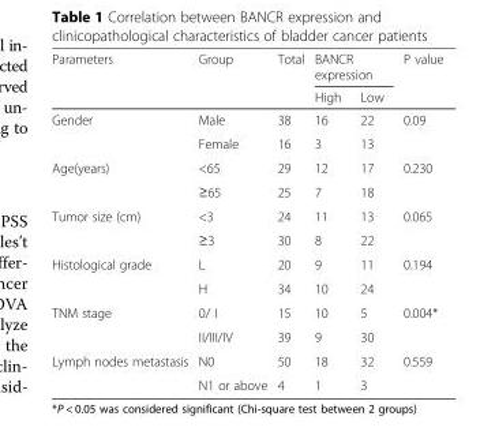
<table><thead><tr><td rowspan="2">Parameters</td><td rowspan="2">Group</td><td rowspan="2">Total</td><td colspan="2">BANCR expression</td><td rowspan="2">P value</td></tr><tr><td>High</td><td>Low</td></tr></thead><tbody><tr><td rowspan="2">Gender</td><td>Male</td><td>38</td><td>16</td><td>22</td><td rowspan="2">0.09</td></tr><tr><td>Female</td><td>16</td><td>3</td><td>13</td></tr><tr><td rowspan="2">Age(years)</td><td>&lt;65</td><td>29</td><td>12</td><td>17</td><td rowspan="2">0.230</td></tr><tr><td>≥65</td><td>25</td><td>7</td><td>18</td></tr><tr><td rowspan="2">Tumor size (cm)</td><td>&lt;3</td><td>24</td><td>11</td><td>13</td><td rowspan="2">0.065</td></tr><tr><td>≥3</td><td>30</td><td>8</td><td>22</td></tr><tr><td rowspan="2">Histological grade</td><td>L</td><td>20</td><td>9</td><td>11</td><td rowspan="2">0.194</td></tr><tr><td>H</td><td>34</td><td>10</td><td>24</td></tr><tr><td rowspan="2">TNM stage</td><td>0/ I</td><td>15</td><td>10</td><td>5</td><td rowspan="2">0.004*</td></tr><tr><td>II/III/IV</td><td>39</td><td>9</td><td>30</td></tr><tr><td rowspan="2">Lymph nodes metastasis</td><td>N0</td><td>50</td><td>18</td><td>32</td><td rowspan="2">0.559</td></tr><tr><td>N1 or above</td><td>4</td><td>1</td><td>3</td></tr></tbody></table>